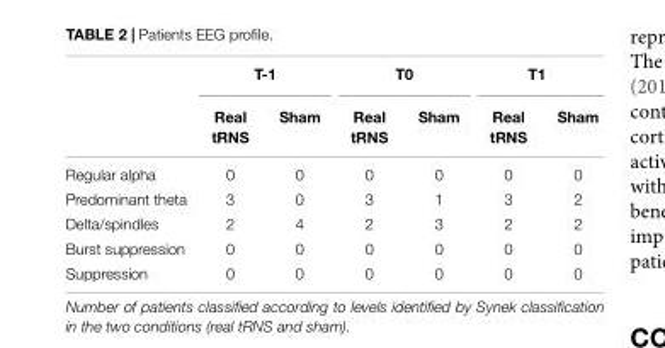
<table><thead><tr><td rowspan="2"></td><td colspan="2">T-1</td><td colspan="2">T0</td><td colspan="2">T1</td></tr><tr><td>Real tRNS</td><td>Sham</td><td>Real tRNS</td><td>Sham</td><td>Real tRNS</td><td>Sham</td></tr></thead><tbody><tr><td>Regular alpha</td><td>0</td><td>0</td><td>0</td><td>0</td><td>0</td><td>0</td></tr><tr><td>Predominant theta</td><td>3</td><td>0</td><td>3</td><td>1</td><td>3</td><td>2</td></tr><tr><td>Delta/spindles</td><td>2</td><td>4</td><td>2</td><td>3</td><td>2</td><td>2</td></tr><tr><td>Burst suppression</td><td>0</td><td>0</td><td>0</td><td>0</td><td>0</td><td>0</td></tr><tr><td>Suppression</td><td>0</td><td>0</td><td>0</td><td>0</td><td>0</td><td>0</td></tr></tbody></table>